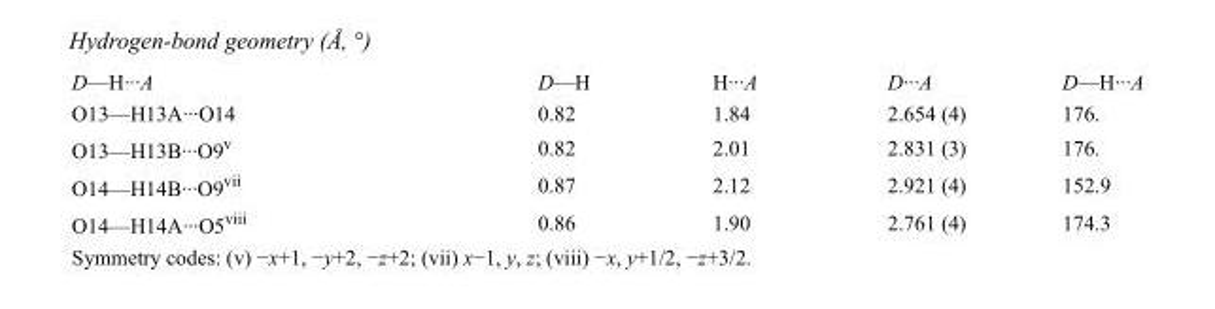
<table><tbody><tr><td>D—H···A</td><td>D—H</td><td>H···A</td><td>D···A</td><td>D—H···A</td></tr><tr><td>O13—H13A···O14</td><td>0.82</td><td>1.84</td><td>2.654 (4)</td><td>176.</td></tr><tr><td>O13—H13B···O9<sup>v</sup></td><td>0.82</td><td>2.01</td><td>2.831 (3)</td><td>176.</td></tr><tr><td>O14—H14B···O9<sup>vii</sup></td><td>0.87</td><td>2.12</td><td>2.921 (4)</td><td>152.9</td></tr><tr><td>O14—H14A···O5<sup>viii</sup></td><td>0.86</td><td>1.90</td><td>2.761 (4)</td><td>174.3</td></tr></tbody></table>